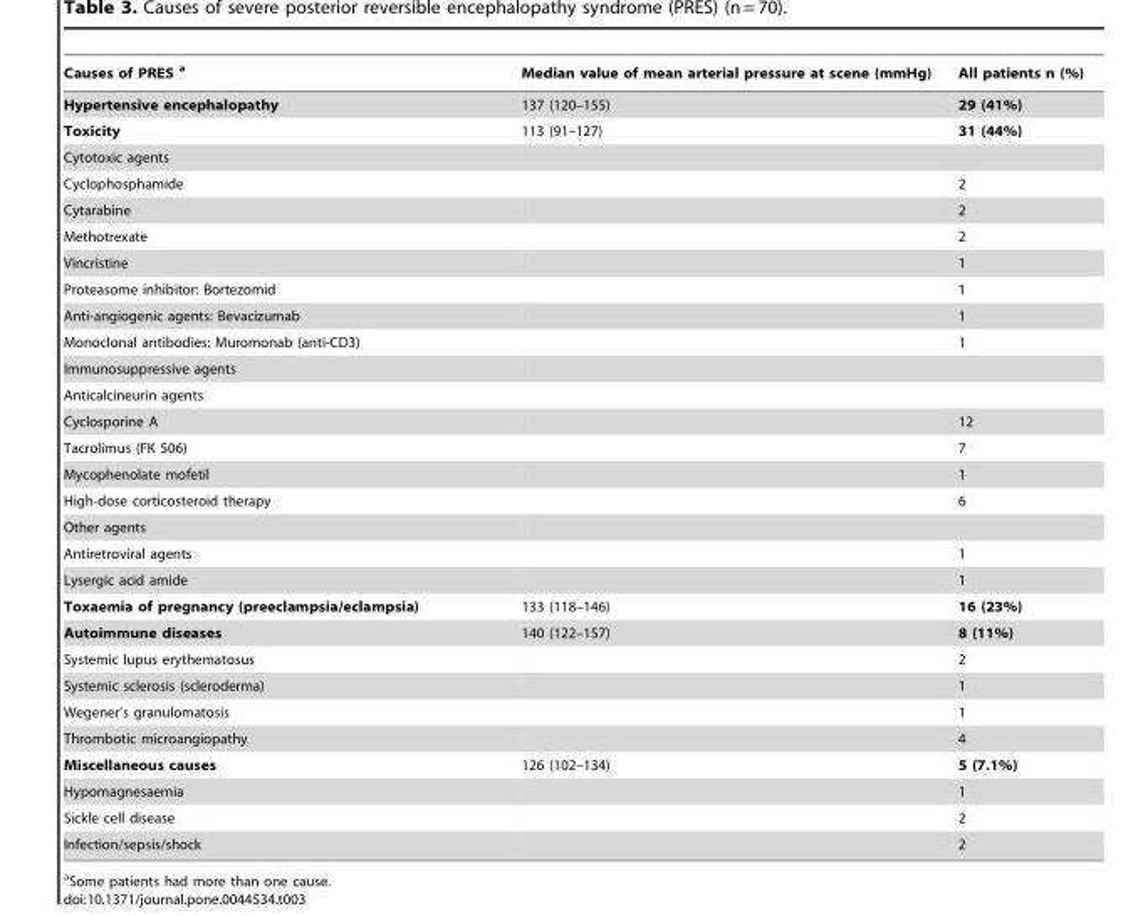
<table><thead><tr><td>Causes of PRES a</td><td>Median value of mean arterial pressure at scene (mmHg)</td><td>All patients n (%)</td></tr></thead><tbody><tr><td>Hypertensive encephalopathy</td><td>137 (120–155)</td><td>29 (41%)</td></tr><tr><td>Toxicity</td><td>113 (91–127)</td><td>31 (44%)</td></tr><tr><td colspan="3">Cytotoxic agents</td></tr><tr><td>Cyclophosphamide</td><td></td><td>2</td></tr><tr><td>Cytarabine</td><td></td><td>2</td></tr><tr><td>Methotrexate</td><td></td><td>2</td></tr><tr><td>Vincristine</td><td></td><td>1</td></tr><tr><td>Proteasome inhibitor: Bortezomid</td><td></td><td>1</td></tr><tr><td>Anti-angiogenic agents: Bevacizumab</td><td></td><td>1</td></tr><tr><td>Monoclonal antibodies: Muromonab (anti-CD3)</td><td></td><td>1</td></tr><tr><td colspan="3">Immunosuppressive agents</td></tr><tr><td colspan="3">Anticalcineurin agents</td></tr><tr><td>Cyclosporine A</td><td></td><td>12</td></tr><tr><td>Tacrolimus (FK 506)</td><td></td><td>7</td></tr><tr><td>Mycophenolate mofetil</td><td></td><td>1</td></tr><tr><td>High-dose corticosteroid therapy</td><td></td><td>6</td></tr><tr><td colspan="3">Other agents</td></tr><tr><td>Antiretroviral agents</td><td></td><td>1</td></tr><tr><td>Lysergic acid amide</td><td></td><td>1</td></tr><tr><td>Toxaemia of pregnancy (preeclampsia/eclampsia)</td><td>133 (118–146)</td><td>16 (23%)</td></tr><tr><td>Autoimmune diseases</td><td>140 (122–157)</td><td>8 (11%)</td></tr><tr><td>Systemic lupus erythematosus</td><td></td><td>2</td></tr><tr><td>Systemic sclerosis (scleroderma)</td><td></td><td>1</td></tr><tr><td>Wegener’s granulomatosis</td><td></td><td>1</td></tr><tr><td>Thrombotic microangiopathy</td><td></td><td>4</td></tr><tr><td>Miscellaneous causes</td><td>126 (102–134)</td><td>5 (7.1%)</td></tr><tr><td>Hypomagnesaemia</td><td></td><td>1</td></tr><tr><td>Sickle cell disease</td><td></td><td>2</td></tr><tr><td>Infection/sepsis/shock</td><td></td><td>2</td></tr></tbody></table>